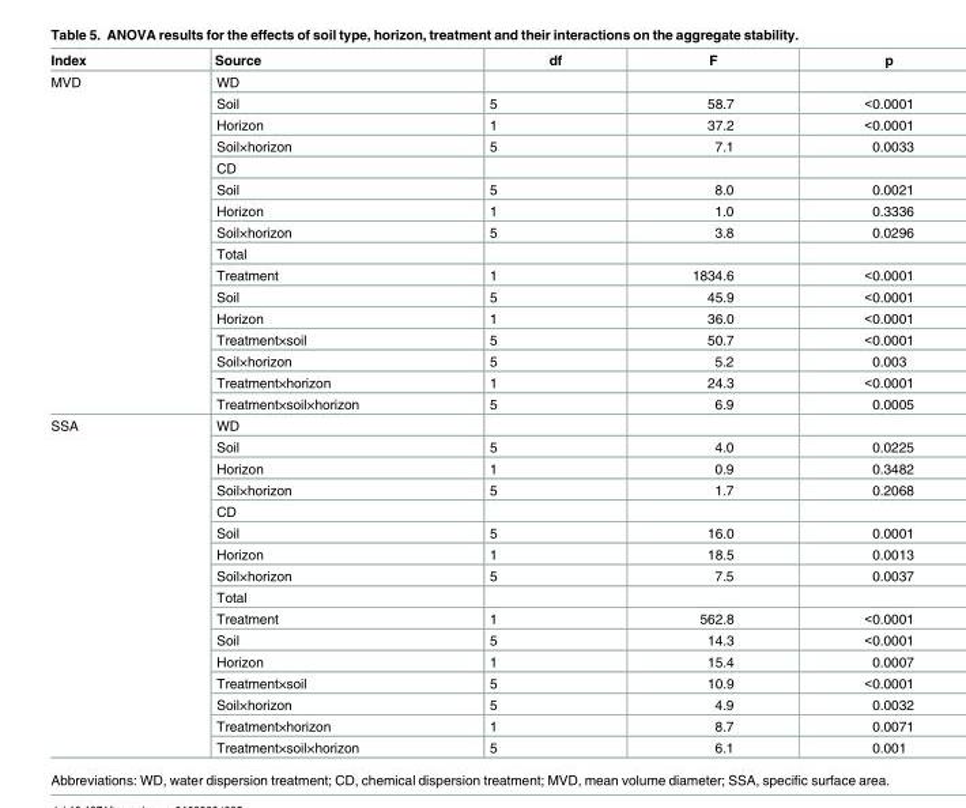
<table><thead><tr><td>Index</td><td>Source</td><td>df</td><td>F</td><td>p</td></tr></thead><tbody><tr><td rowspan="16">MVD</td><td>WD</td><td></td><td></td><td></td></tr><tr><td>Soil</td><td>5</td><td>58.7</td><td>&lt;0.0001</td></tr><tr><td>Horizon</td><td>1</td><td>37.2</td><td>&lt;0.0001</td></tr><tr><td>Soil×horizon</td><td>5</td><td>7.1</td><td>0.0033</td></tr><tr><td>CD</td><td></td><td></td><td></td></tr><tr><td>Soil</td><td>5</td><td>8.0</td><td>0.0021</td></tr><tr><td>Horizon</td><td>1</td><td>1.0</td><td>0.3336</td></tr><tr><td>Soil×horizon</td><td>5</td><td>3.8</td><td>0.0296</td></tr><tr><td>Total</td><td></td><td></td><td></td></tr><tr><td>Treatment</td><td>1</td><td>1834.6</td><td>&lt;0.0001</td></tr><tr><td>Soil</td><td>5</td><td>45.9</td><td>&lt;0.0001</td></tr><tr><td>Horizon</td><td>1</td><td>36.0</td><td>&lt;0.0001</td></tr><tr><td>Treatment×soil</td><td>5</td><td>50.7</td><td>&lt;0.0001</td></tr><tr><td>Soil×horizon</td><td>5</td><td>5.2</td><td>0.003</td></tr><tr><td>Treatment×horizon</td><td>1</td><td>24.3</td><td>&lt;0.0001</td></tr><tr><td>Treatment×soil×horizon</td><td>5</td><td>6.9</td><td>0.0005</td></tr><tr><td rowspan="16">SSA</td><td>WD</td><td></td><td></td><td></td></tr><tr><td>Soil</td><td>5</td><td>4.0</td><td>0.0225</td></tr><tr><td>Horizon</td><td>1</td><td>0.9</td><td>0.3482</td></tr><tr><td>Soil×horizon</td><td>5</td><td>1.7</td><td>0.2068</td></tr><tr><td>CD</td><td></td><td></td><td></td></tr><tr><td>Soil</td><td>5</td><td>16.0</td><td>0.0001</td></tr><tr><td>Horizon</td><td>1</td><td>18.5</td><td>0.0013</td></tr><tr><td>Soil×horizon</td><td>5</td><td>7.5</td><td>0.0037</td></tr><tr><td>Total</td><td></td><td></td><td></td></tr><tr><td>Treatment</td><td>1</td><td>562.8</td><td>&lt;0.0001</td></tr><tr><td>Soil</td><td>5</td><td>14.3</td><td>&lt;0.0001</td></tr><tr><td>Horizon</td><td>1</td><td>15.4</td><td>0.0007</td></tr><tr><td>Treatment×soil</td><td>5</td><td>10.9</td><td>&lt;0.0001</td></tr><tr><td>Soil×horizon</td><td>5</td><td>4.9</td><td>0.0032</td></tr><tr><td>Treatment×horizon</td><td>1</td><td>8.7</td><td>0.0071</td></tr><tr><td>Treatment×soil×horizon</td><td>5</td><td>6.1</td><td>0.001</td></tr></tbody></table>